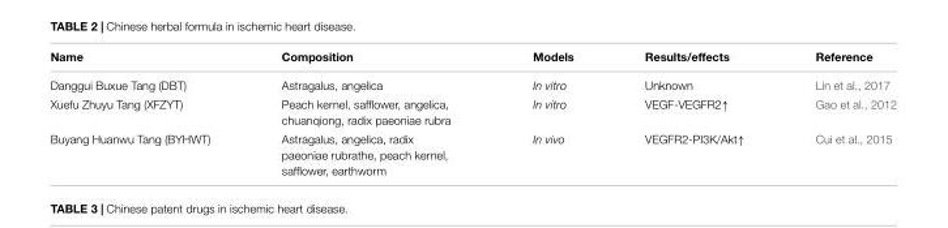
<table><thead><tr><td>Name</td><td>Composition</td><td>Models</td><td>Results/effects</td><td>Reference</td></tr></thead><tbody><tr><td>Danggui Buxue Tang (DBT)</td><td>Astragalus, angelica</td><td>In vitro</td><td>Unknown</td><td>Lin et al., 2017</td></tr><tr><td>Xuefu Zhuyu Tang (XFZYT)</td><td>Peach kernel, safflower, angelica, chuanqiong, radix paeoniae rubra</td><td>In vitro</td><td>VEGF-VEGFR2↑</td><td>Gao et al., 2012</td></tr><tr><td>Buyang Huanwu Tang (BYHWT)</td><td>Astragalus, angelica, radix paeoniae rubrathe, peach kernel, safflower, earthworm</td><td>In vivo</td><td>VEGFR2-PI3K/Akt↑</td><td>Cui et al., 2015</td></tr></tbody></table>